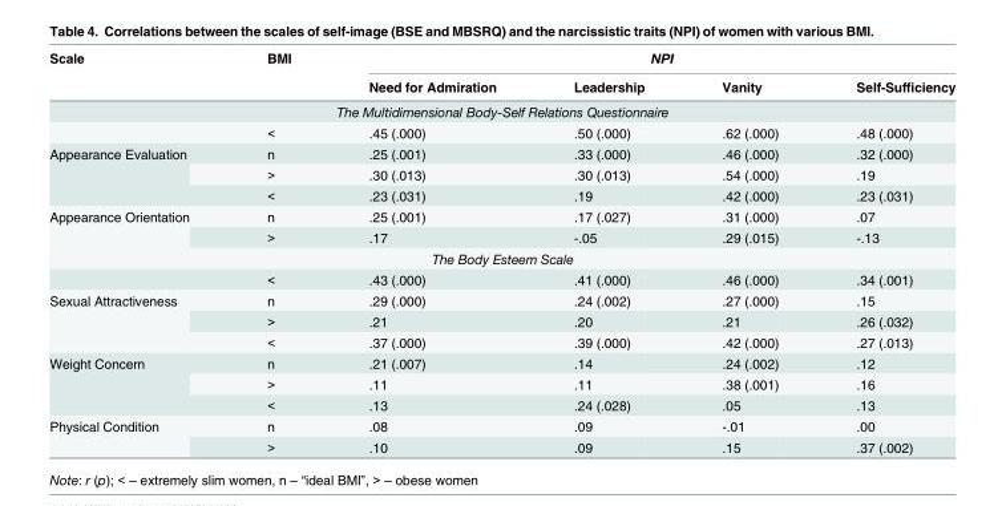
<table><thead><tr><td rowspan="2">Scale</td><td rowspan="2">BMI</td><td colspan="4">NPI</td></tr><tr><td>Need for Admiration</td><td>Leadership</td><td>Vanity</td><td>Self-Sufficiency</td></tr></thead><tbody><tr><td colspan="6">The Multidimensional Body-Self Relations Questionnaire</td></tr><tr><td></td><td>&lt;</td><td>.45 (.000)</td><td>.50 (.000)</td><td>.62 (.000)</td><td>.48 (.000)</td></tr><tr><td rowspan="3">Appearance Evaluation</td><td>n</td><td>.25 (.001)</td><td>.33 (.000)</td><td>.46 (.000)</td><td>.32 (.000)</td></tr><tr><td>&gt;</td><td>.30 (.013)</td><td>.30 (.013)</td><td>.54 (.000)</td><td>.19</td></tr><tr><td>&lt;</td><td>.23 (.031)</td><td>.19</td><td>.42 (.000)</td><td>.23 (.031)</td></tr><tr><td rowspan="2">Appearance Orientation</td><td>n</td><td>.25 (.001)</td><td>.17 (.027)</td><td>.31 (.000)</td><td>.07</td></tr><tr><td>&gt;</td><td>.17</td><td>-.05</td><td>.29 (.015)</td><td>-.13</td></tr><tr><td colspan="6">The Body Esteem Scale</td></tr><tr><td></td><td>&lt;</td><td>.43 (.000)</td><td>.41 (.000)</td><td>.46 (.000)</td><td>.34 (.001)</td></tr><tr><td rowspan="3">Sexual Attractiveness</td><td>n</td><td>.29 (.000)</td><td>.24 (.002)</td><td>.27 (.000)</td><td>.15</td></tr><tr><td>&gt;</td><td>.21</td><td>.20</td><td>.21</td><td>.26 (.032)</td></tr><tr><td>&lt;</td><td>.37 (.000)</td><td>.39 (.000)</td><td>.42 (.000)</td><td>.27 (.013)</td></tr><tr><td rowspan="3">Weight Concern</td><td>n</td><td>.21 (.007)</td><td>.14</td><td>.24 (.002)</td><td>.12</td></tr><tr><td>&gt;</td><td>.11</td><td>.11</td><td>.38 (.001)</td><td>.16</td></tr><tr><td>&lt;</td><td>.13</td><td>.24 (.028)</td><td>.05</td><td>.13</td></tr><tr><td rowspan="2">Physical Condition</td><td>n</td><td>.08</td><td>.09</td><td>-.01</td><td>.00</td></tr><tr><td>&gt;</td><td>.10</td><td>.09</td><td>.15</td><td>.37 (.002)</td></tr></tbody></table>